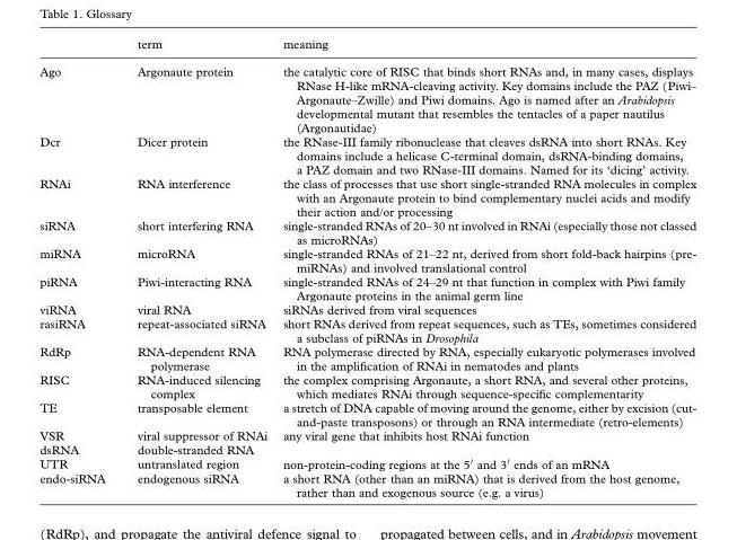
<table><thead><tr><td></td><td>term</td><td>meaning</td></tr></thead><tbody><tr><td>Ago</td><td>Argonaute protein</td><td>the catalytic core of RISC that binds short RNAs and, in many cases, displays RNase H-like mRNA-cleaving activity. Key domains include the PAZ (Piwi– Argonaute–Zwille) and Piwi domains. Ago is named after an Arabidopsis developmental mutant that resembles the tentacles of a paper nautilus (Argonautidae)</td></tr><tr><td>Dcr</td><td>Dicer protein</td><td>the RNase-III family ribonuclease that cleaves dsRNA into short RNAs. Key domains include a helicase C-terminal domain, dsRNA-binding domains, a PAZ domain and two RNase-III domains. Named for its ‘dicing’ activity.</td></tr><tr><td>RNAi</td><td>RNA interference</td><td>the class of processes that use short single-stranded RNA molecules in complex with an Argonaute protein to bind complementary nuclei acids and modify their action and/or processing</td></tr><tr><td>siRNA</td><td>short interfering RNA</td><td>single-stranded RNAs of 20–30 nt involved in RNAi (especially those not classed as microRNAs)</td></tr><tr><td>miRNA</td><td>microRNA</td><td>single-stranded RNAs of 21–22 nt, derived from short fold-back hairpins (pre- miRNAs) and involved translational control</td></tr><tr><td>piRNA</td><td>Piwi-interacting RNA</td><td>single-stranded RNAs of 24–29 nt that function in complex with Piwi family Argonaute proteins in the animal germ line</td></tr><tr><td>viRNA</td><td>viral RNA</td><td>siRNAs derived from viral sequences</td></tr><tr><td>rasiRNA</td><td>repeat-associated siRNA</td><td>short RNAs derived from repeat sequences, such as TEs, sometimes considered a subclass of piRNAs in Drosophila</td></tr><tr><td>RdRp</td><td>RNA-dependent RNA polymerase</td><td>RNA polymerase directed by RNA, especially eukaryotic polymerases involved in the amplification of RNAi in nematodes and plants</td></tr><tr><td>RISC</td><td>RNA-induced silencing complex</td><td>the complex comprising Argonaute, a short RNA, and several other proteins, which mediates RNAi through sequence-specific complementarity</td></tr><tr><td>TE</td><td>transposable element</td><td>a stretch of DNA capable of moving around the genome, either by excision (cut- and-paste transposons) or through an RNA intermediate (retro-elements)</td></tr><tr><td>VSR</td><td>viral suppressor of RNAi</td><td>any viral gene that inhibits host RNAi function</td></tr><tr><td>dsRNA</td><td>double-stranded RNA</td><td></td></tr><tr><td>UTR</td><td>untranslated region</td><td>non-protein-coding regions at the 5′ and 3′ ends of an mRNA</td></tr><tr><td>endo-siRNA</td><td>endogenous siRNA</td><td>a short RNA (other than an miRNA) that is derived from the host genome, rather than and exogenous source (e.g. a virus)</td></tr></tbody></table>